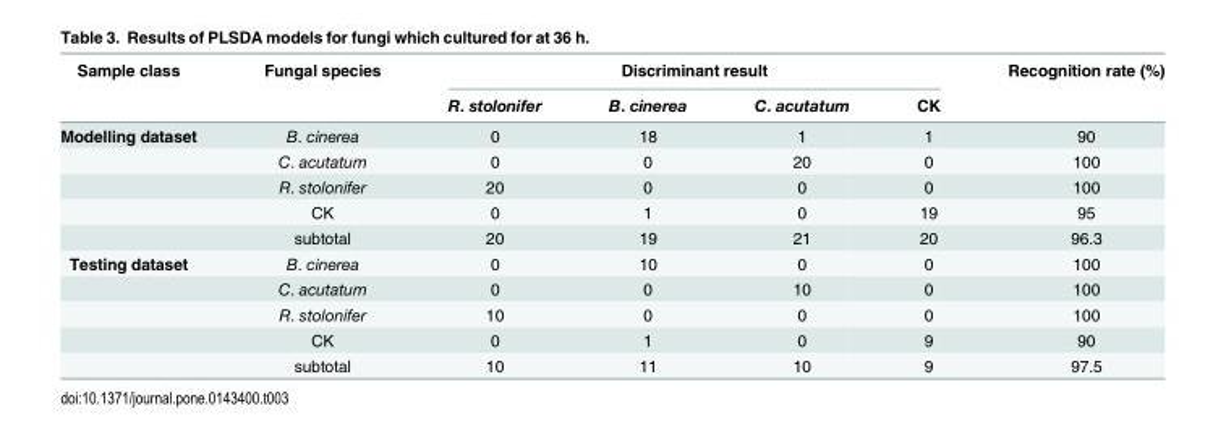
<table><thead><tr><td rowspan="2">Sample class</td><td rowspan="2">Fungal species</td><td colspan="4">Discriminant result</td><td rowspan="2">Recognition rate (%)</td></tr><tr><td>R. stolonifer</td><td>B. cinerea</td><td>C. acutatum</td><td>CK</td></tr></thead><tbody><tr><td rowspan="5">Modelling dataset</td><td>B. cinerea</td><td>0</td><td>18</td><td>1</td><td>1</td><td>90</td></tr><tr><td>C. acutatum</td><td>0</td><td>0</td><td>20</td><td>0</td><td>100</td></tr><tr><td>R. stolonifer</td><td>20</td><td>0</td><td>0</td><td>0</td><td>100</td></tr><tr><td>CK</td><td>0</td><td>1</td><td>0</td><td>19</td><td>95</td></tr><tr><td>subtotal</td><td>20</td><td>19</td><td>21</td><td>20</td><td>96.3</td></tr><tr><td rowspan="5">Testing dataset</td><td>B. cinerea</td><td>0</td><td>10</td><td>0</td><td>0</td><td>100</td></tr><tr><td>C. acutatum</td><td>0</td><td>0</td><td>10</td><td>0</td><td>100</td></tr><tr><td>R. stolonifer</td><td>10</td><td>0</td><td>0</td><td>0</td><td>100</td></tr><tr><td>CK</td><td>0</td><td>1</td><td>0</td><td>9</td><td>90</td></tr><tr><td>subtotal</td><td>10</td><td>11</td><td>10</td><td>9</td><td>97.5</td></tr></tbody></table>